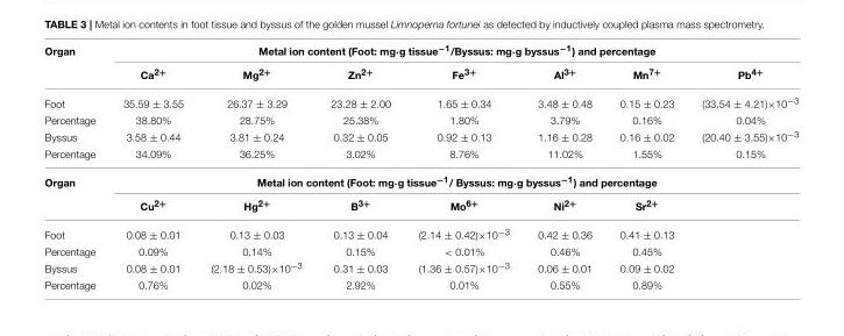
<table><thead><tr><td rowspan="2">Organ</td><td colspan="7">Metal ion content (Foot: mg·g tissue<sup>−1</sup>/Byssus: mg·g byssus<sup>−1</sup>) and percentage</td></tr><tr><td>Ca<sup>2+</sup></td><td>Mg<sup>2+</sup></td><td>Zn<sup>2+</sup></td><td>Fe<sup>3+</sup></td><td>Al<sup>3+</sup></td><td>Mn<sup>7+</sup></td><td>Pb<sup>4+</sup></td></tr></thead><tbody><tr><td>Foot</td><td>35.59 ± 3.55</td><td>26.37 ± 3.29</td><td>23.28 ± 2.00</td><td>1.65 ± 0.34</td><td>3.48 ± 0.48</td><td>0.15 ± 0.23</td><td>(33.54 ± 4.21)×10<sup>−3</sup></td></tr><tr><td>Percentage</td><td>38.80%</td><td>28.75%</td><td>25.38%</td><td>1.80%</td><td>3.79%</td><td>0.16%</td><td>0.04%</td></tr><tr><td>Byssus</td><td>3.58 ± 0.44</td><td>3.81 ± 0.24</td><td>0.32 ± 0.05</td><td>0.92 ± 0.13</td><td>1.16 ± 0.28</td><td>0.16 ± 0.02</td><td>(20.40 ± 3.55)×10<sup>−3</sup></td></tr><tr><td>Percentage</td><td>34.09%</td><td>36.25%</td><td>3.02%</td><td>8.76%</td><td>11.02%</td><td>1.55%</td><td>0.15%</td></tr><tr><td rowspan="2">Organ</td><td colspan="7">Metal ion content (Foot: mg·g tissue<sup>−1</sup>/ Byssus: mg·g byssus<sup>−1</sup>) and percentage</td></tr><tr><td>Cu<sup>2+</sup></td><td>Hg<sup>2+</sup></td><td>B<sup>3+</sup></td><td>Mo<sup>6+</sup></td><td>Ni<sup>2+</sup></td><td>Sr<sup>2+</sup></td><td></td></tr><tr><td>Foot</td><td>0.08 ± 0.01</td><td>0.13 ± 0.03</td><td>0.13 ± 0.04</td><td>(2.14 ± 0.42)×10<sup>−3</sup></td><td>0.42 ± 0.36</td><td>0.41 ± 0.13</td><td></td></tr><tr><td>Percentage</td><td>0.09%</td><td>0.14%</td><td>0.15%</td><td>&lt; 0.01%</td><td>0.46%</td><td>0.45%</td><td></td></tr><tr><td>Byssus</td><td>0.08 ± 0.01</td><td>(2.18 ± 0.53)×10<sup>−3</sup></td><td>0.31 ± 0.03</td><td>(1.36 ± 0.57)×10<sup>−3</sup></td><td>0.06 ± 0.01</td><td>0.09 ± 0.02</td><td></td></tr><tr><td>Percentage</td><td>0.76%</td><td>0.02%</td><td>2.92%</td><td>0.01%</td><td>0.55%</td><td>0.89%</td><td></td></tr></tbody></table>